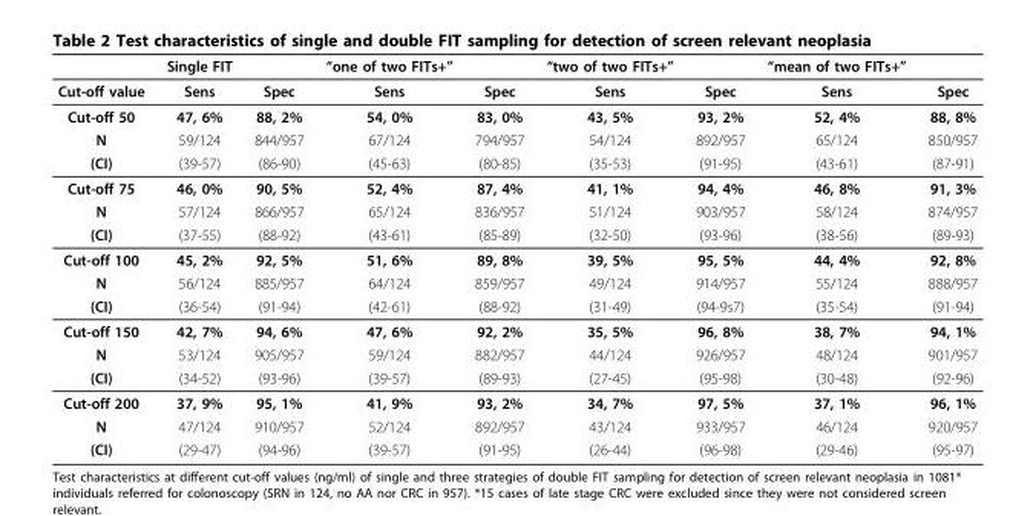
<table><thead><tr><td></td><td>Single FIT</td><td></td><td>“one of two FITs+”</td><td></td><td>“two of two FITs+”</td><td></td><td>“mean of two FITs+”</td><td></td></tr></thead><tbody><tr><td>Cut-off value</td><td>Sens</td><td>Spec</td><td>Sens</td><td>Spec</td><td>Sens</td><td>Spec</td><td>Sens</td><td>Spec</td></tr><tr><td>Cut-off 50</td><td>47, 6%</td><td>88, 2%</td><td>54, 0%</td><td>83, 0%</td><td>43, 5%</td><td>93, 2%</td><td>52, 4%</td><td>88, 8%</td></tr><tr><td>N</td><td>59/124</td><td>844/957</td><td>67/124</td><td>794/957</td><td>54/124</td><td>892/957</td><td>65/124</td><td>850/957</td></tr><tr><td>(CI)</td><td>(39-57)</td><td>(86-90)</td><td>(45-63)</td><td>(80-85)</td><td>(35-53)</td><td>(91-95)</td><td>(43-61)</td><td>(87-91)</td></tr><tr><td>Cut-off 75</td><td>46, 0%</td><td>90, 5%</td><td>52, 4%</td><td>87, 4%</td><td>41, 1%</td><td>94, 4%</td><td>46, 8%</td><td>91, 3%</td></tr><tr><td>N</td><td>57/124</td><td>866/957</td><td>65/124</td><td>836/957</td><td>51/124</td><td>903/957</td><td>58/124</td><td>874/957</td></tr><tr><td>(CI)</td><td>(37-55)</td><td>(88-92)</td><td>(43-61)</td><td>(85-89)</td><td>(32-50)</td><td>(93-96)</td><td>(38-56)</td><td>(89-93)</td></tr><tr><td>Cut-off 100</td><td>45, 2%</td><td>92, 5%</td><td>51, 6%</td><td>89, 8%</td><td>39, 5%</td><td>95, 5%</td><td>44, 4%</td><td>92, 8%</td></tr><tr><td>N</td><td>56/124</td><td>885/957</td><td>64/124</td><td>859/957</td><td>49/124</td><td>914/957</td><td>55/124</td><td>888/957</td></tr><tr><td>(CI)</td><td>(36-54)</td><td>(91-94)</td><td>(42-61)</td><td>(88-92)</td><td>(31-49)</td><td>(94-9s7)</td><td>(35-54)</td><td>(91-94)</td></tr><tr><td>Cut-off 150</td><td>42, 7%</td><td>94, 6%</td><td>47, 6%</td><td>92, 2%</td><td>35, 5%</td><td>96, 8%</td><td>38, 7%</td><td>94, 1%</td></tr><tr><td>N</td><td>53/124</td><td>905/957</td><td>59/124</td><td>882/957</td><td>44/124</td><td>926/957</td><td>48/124</td><td>901/957</td></tr><tr><td>(CI)</td><td>(34-52)</td><td>(93-96)</td><td>(39-57)</td><td>(89-93)</td><td>(27-45)</td><td>(95-98)</td><td>(30-48)</td><td>(92-96)</td></tr><tr><td>Cut-off 200</td><td>37, 9%</td><td>95, 1%</td><td>41, 9%</td><td>93, 2%</td><td>34, 7%</td><td>97, 5%</td><td>37, 1%</td><td>96, 1%</td></tr><tr><td>N</td><td>47/124</td><td>910/957</td><td>52/124</td><td>892/957</td><td>43/124</td><td>933/957</td><td>46/124</td><td>920/957</td></tr><tr><td>(CI)</td><td>(29-47)</td><td>(94-96)</td><td>(39-57)</td><td>(91-95)</td><td>(26-44)</td><td>(96-98)</td><td>(29-46)</td><td>(95-97)</td></tr></tbody></table>